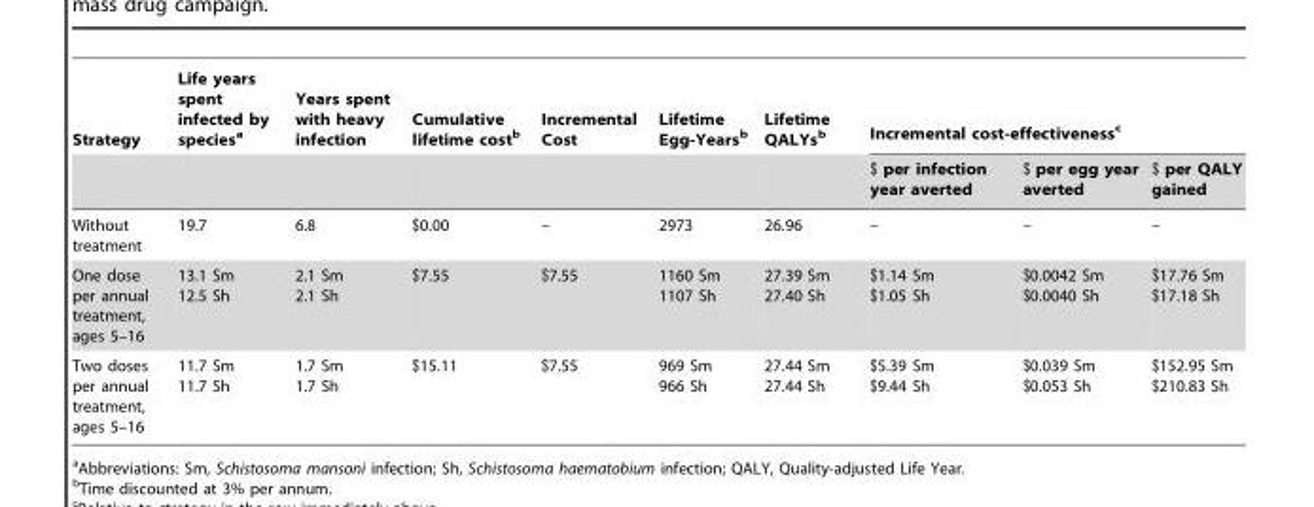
<table><thead><tr><td rowspan="2">Strategy</td><td rowspan="2">Life years spent infected by species<sup>a</sup></td><td rowspan="2">Years spent with heavy infection</td><td rowspan="2">Cumulative lifetime cost<sup>b</sup></td><td rowspan="2">Incremental Cost</td><td rowspan="2">Lifetime Egg-Years<sup>b</sup></td><td rowspan="2">Lifetime QALYs<sup>b</sup></td><td colspan="3">Incremental cost-effectiveness<sup>c</sup></td></tr><tr><td>$ per infection year averted</td><td>$ per egg year averted</td><td>$ per QALY gained</td></tr></thead><tbody><tr><td>Without treatment</td><td>19.7</td><td>6.8</td><td>$0.00</td><td>–</td><td>2973</td><td>26.96</td><td>–</td><td>–</td><td>–</td></tr><tr><td>One dose per annual treatment, ages 5–16</td><td>13.1 Sm 12.5 Sh</td><td>2.1 Sm 2.1 Sh</td><td>$7.55</td><td>$7.55</td><td>1160 Sm 1107 Sh</td><td>27.39 Sm 27.40 Sh</td><td>$1.14 Sm $1.05 Sh</td><td>$0.0042 Sm $0.0040 Sh</td><td>$17.76 Sm $17.18 Sh</td></tr><tr><td>Two doses per annual treatment, ages 5–16</td><td>11.7 Sm 11.7 Sh</td><td>1.7 Sm 1.7 Sh</td><td>$15.11</td><td>$7.55</td><td>969 Sm 966 Sh</td><td>27.44 Sm 27.44 Sh</td><td>$5.39 Sm $9.44 Sh</td><td>$0.039 Sm $0.053 Sh</td><td>$152.95 Sm $210.83 Sh</td></tr></tbody></table>